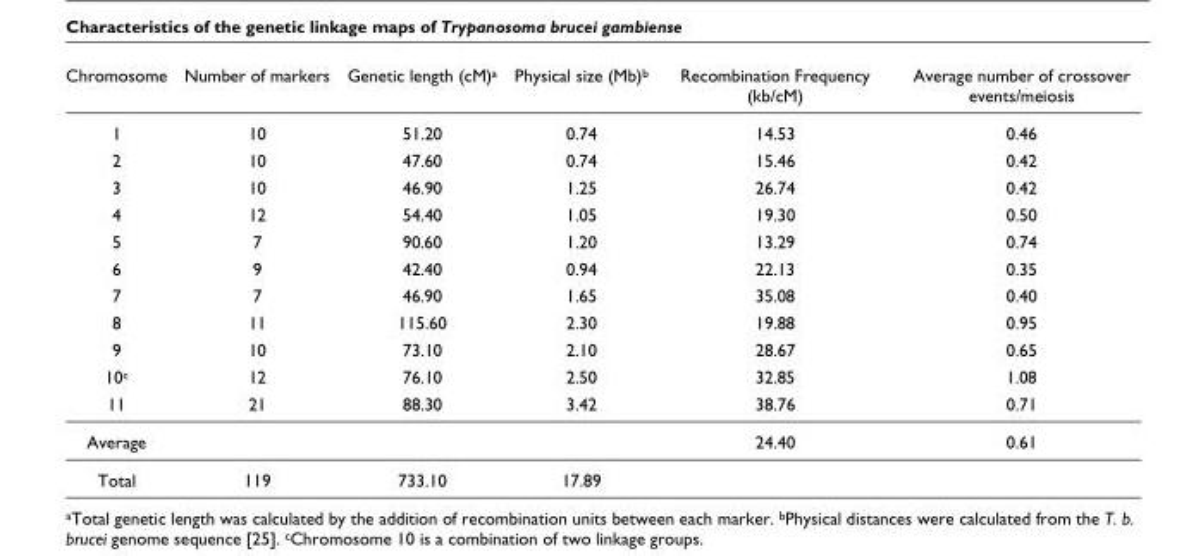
<table><thead><tr><td>Chromosome</td><td>Number of markers</td><td>Genetic length (cM)<sup>a</sup></td><td>Physical size (Mb)<sup>b</sup></td><td>Recombination Frequency (kb/cM)</td><td>Average number of crossover events/meiosis</td></tr></thead><tbody><tr><td>1</td><td>10</td><td>51.20</td><td>0.74</td><td>14.53</td><td>0.46</td></tr><tr><td>2</td><td>10</td><td>47.60</td><td>0.74</td><td>15.46</td><td>0.42</td></tr><tr><td>3</td><td>10</td><td>46.90</td><td>1.25</td><td>26.74</td><td>0.42</td></tr><tr><td>4</td><td>12</td><td>54.40</td><td>1.05</td><td>19.30</td><td>0.50</td></tr><tr><td>5</td><td>7</td><td>90.60</td><td>1.20</td><td>13.29</td><td>0.74</td></tr><tr><td>6</td><td>9</td><td>42.40</td><td>0.94</td><td>22.13</td><td>0.35</td></tr><tr><td>7</td><td>7</td><td>46.90</td><td>1.65</td><td>35.08</td><td>0.40</td></tr><tr><td>8</td><td>11</td><td>115.60</td><td>2.30</td><td>19.88</td><td>0.95</td></tr><tr><td>9</td><td>10</td><td>73.10</td><td>2.10</td><td>28.67</td><td>0.65</td></tr><tr><td>10<sup>c</sup></td><td>12</td><td>76.10</td><td>2.50</td><td>32.85</td><td>1.08</td></tr><tr><td>11</td><td>21</td><td>88.30</td><td>3.42</td><td>38.76</td><td>0.71</td></tr><tr><td>Average</td><td></td><td></td><td></td><td>24.40</td><td>0.61</td></tr><tr><td>Total</td><td>119</td><td>733.10</td><td>17.89</td><td></td><td></td></tr></tbody></table>